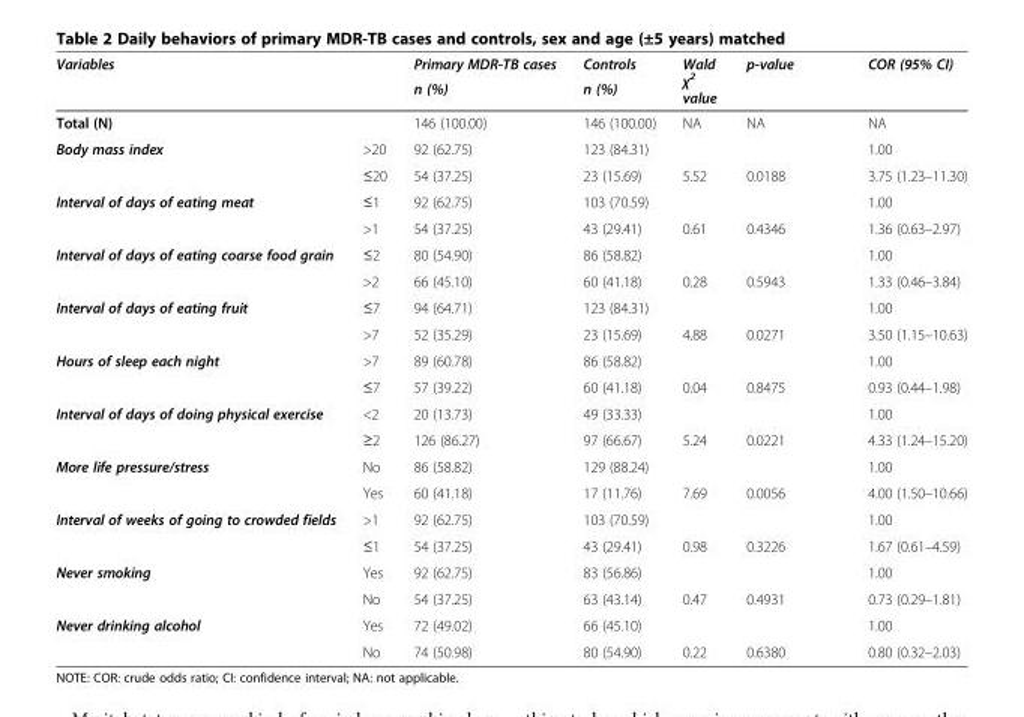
<table><thead><tr><td rowspan="2" colspan="2">Variables</td><td rowspan="3">Primary MDR-TB cases n (%) 146 (100.00)</td><td rowspan="3">Controls n (%) 146 (100.00)</td><td rowspan="3">Wald χ<sup>2</sup> value NA</td><td rowspan="3">p-value NA</td><td rowspan="3">COR (95% CI) NA</td></tr><tr></tr><tr><td>Total (N)</td><td></td></tr></thead><tbody><tr><td rowspan="2">Body mass index</td><td>&gt;20</td><td>92 (62.75)</td><td>123 (84.31)</td><td></td><td></td><td>1.00</td></tr><tr><td>≤20</td><td>54 (37.25)</td><td>23 (15.69)</td><td>5.52</td><td>0.0188</td><td>3.75 (1.23–11.30)</td></tr><tr><td rowspan="2">Interval of days of eating meat</td><td>≤1</td><td>92 (62.75)</td><td>103 (70.59)</td><td></td><td></td><td>1.00</td></tr><tr><td>&gt;1</td><td>54 (37.25)</td><td>43 (29.41)</td><td>0.61</td><td>0.4346</td><td>1.36 (0.63–2.97)</td></tr><tr><td rowspan="2">Interval of days of eating coarse food grain</td><td>≤2</td><td>80 (54.90)</td><td>86 (58.82)</td><td></td><td></td><td>1.00</td></tr><tr><td>&gt;2</td><td>66 (45.10)</td><td>60 (41.18)</td><td>0.28</td><td>0.5943</td><td>1.33 (0.46–3.84)</td></tr><tr><td rowspan="2">Interval of days of eating fruit</td><td>≤7</td><td>94 (64.71)</td><td>123 (84.31)</td><td></td><td></td><td>1.00</td></tr><tr><td>&gt;7</td><td>52 (35.29)</td><td>23 (15.69)</td><td>4.88</td><td>0.0271</td><td>3.50 (1.15–10.63)</td></tr><tr><td rowspan="2">Hours of sleep each night</td><td>&gt;7</td><td>89 (60.78)</td><td>86 (58.82)</td><td></td><td></td><td>1.00</td></tr><tr><td>≤7</td><td>57 (39.22)</td><td>60 (41.18)</td><td>0.04</td><td>0.8475</td><td>0.93 (0.44–1.98)</td></tr><tr><td rowspan="2">Interval of days of doing physical exercise</td><td>&lt;2</td><td>20 (13.73)</td><td>49 (33.33)</td><td></td><td></td><td>1.00</td></tr><tr><td>≥2</td><td>126 (86.27)</td><td>97 (66.67)</td><td>5.24</td><td>0.0221</td><td>4.33 (1.24–15.20)</td></tr><tr><td rowspan="2">More life pressure/stress</td><td>No</td><td>86 (58.82)</td><td>129 (88.24)</td><td></td><td></td><td>1.00</td></tr><tr><td>Yes</td><td>60 (41.18)</td><td>17 (11.76)</td><td>7.69</td><td>0.0056</td><td>4.00 (1.50–10.66)</td></tr><tr><td rowspan="2">Interval of weeks of going to crowded fields</td><td>&gt;1</td><td>92 (62.75)</td><td>103 (70.59)</td><td></td><td></td><td>1.00</td></tr><tr><td>≤1</td><td>54 (37.25)</td><td>43 (29.41)</td><td>0.98</td><td>0.3226</td><td>1.67 (0.61–4.59)</td></tr><tr><td rowspan="2">Never smoking</td><td>Yes</td><td>92 (62.75)</td><td>83 (56.86)</td><td></td><td></td><td>1.00</td></tr><tr><td>No</td><td>54 (37.25)</td><td>63 (43.14)</td><td>0.47</td><td>0.4931</td><td>0.73 (0.29–1.81)</td></tr><tr><td rowspan="2">Never drinking alcohol</td><td>Yes</td><td>72 (49.02)</td><td>66 (45.10)</td><td></td><td></td><td>1.00</td></tr><tr><td>No</td><td>74 (50.98)</td><td>80 (54.90)</td><td>0.22</td><td>0.6380</td><td>0.80 (0.32–2.03)</td></tr></tbody></table>